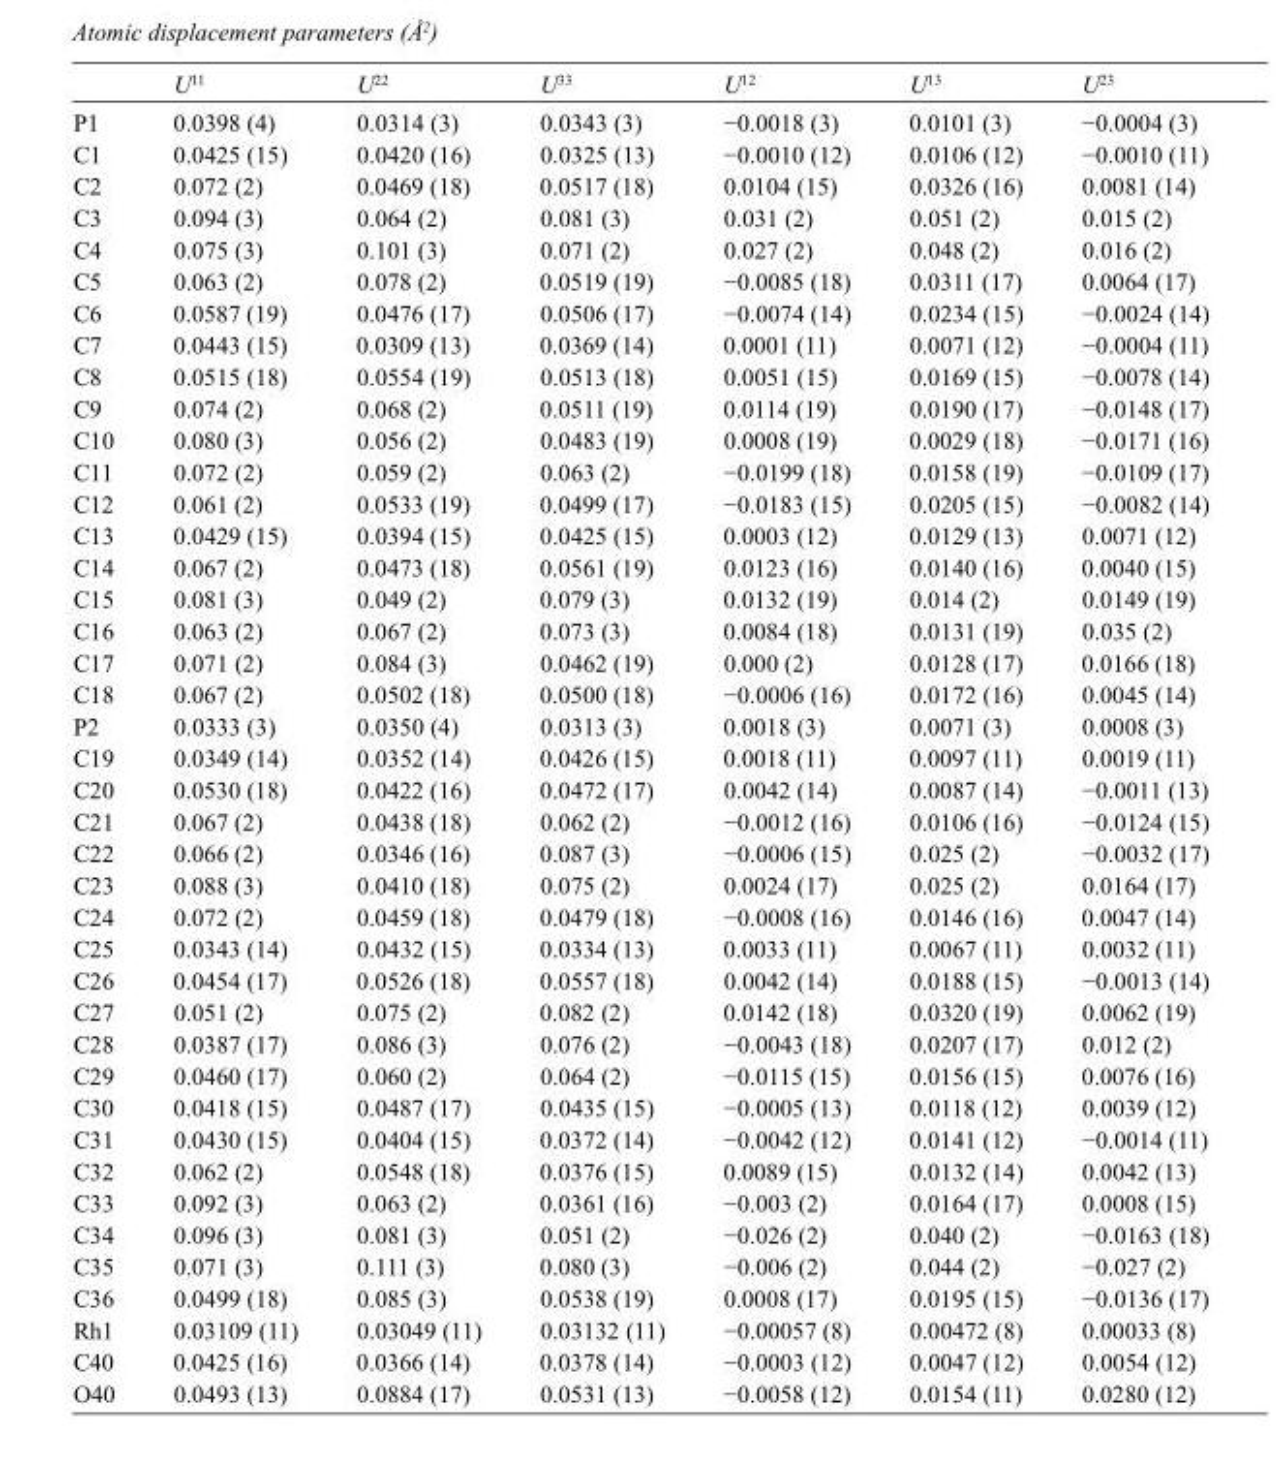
<table><thead><tr><td></td><td>U<sup>11</sup></td><td>U<sup>22</sup></td><td>U<sup>33</sup></td><td>U<sup>12</sup></td><td>U<sup>13</sup></td><td>U<sup>23</sup></td></tr></thead><tbody><tr><td>P1</td><td>0.0398 (4)</td><td>0.0314 (3)</td><td>0.0343 (3)</td><td>−0.0018 (3)</td><td>0.0101 (3)</td><td>−0.0004 (3)</td></tr><tr><td>C1</td><td>0.0425 (15)</td><td>0.0420 (16)</td><td>0.0325 (13)</td><td>−0.0010 (12)</td><td>0.0106 (12)</td><td>−0.0010 (11)</td></tr><tr><td>C2</td><td>0.072 (2)</td><td>0.0469 (18)</td><td>0.0517 (18)</td><td>0.0104 (15)</td><td>0.0326 (16)</td><td>0.0081 (14)</td></tr><tr><td>C3</td><td>0.094 (3)</td><td>0.064 (2)</td><td>0.081 (3)</td><td>0.031 (2)</td><td>0.051 (2)</td><td>0.015 (2)</td></tr><tr><td>C4</td><td>0.075 (3)</td><td>0.101 (3)</td><td>0.071 (2)</td><td>0.027 (2)</td><td>0.048 (2)</td><td>0.016 (2)</td></tr><tr><td>C5</td><td>0.063 (2)</td><td>0.078 (2)</td><td>0.0519 (19)</td><td>−0.0085 (18)</td><td>0.0311 (17)</td><td>0.0064 (17)</td></tr><tr><td>C6</td><td>0.0587 (19)</td><td>0.0476 (17)</td><td>0.0506 (17)</td><td>−0.0074 (14)</td><td>0.0234 (15)</td><td>−0.0024 (14)</td></tr><tr><td>C7</td><td>0.0443 (15)</td><td>0.0309 (13)</td><td>0.0369 (14)</td><td>0.0001 (11)</td><td>0.0071 (12)</td><td>−0.0004 (11)</td></tr><tr><td>C8</td><td>0.0515 (18)</td><td>0.0554 (19)</td><td>0.0513 (18)</td><td>0.0051 (15)</td><td>0.0169 (15)</td><td>−0.0078 (14)</td></tr><tr><td>C9</td><td>0.074 (2)</td><td>0.068 (2)</td><td>0.0511 (19)</td><td>0.0114 (19)</td><td>0.0190 (17)</td><td>−0.0148 (17)</td></tr><tr><td>C10</td><td>0.080 (3)</td><td>0.056 (2)</td><td>0.0483 (19)</td><td>0.0008 (19)</td><td>0.0029 (18)</td><td>−0.0171 (16)</td></tr><tr><td>C11</td><td>0.072 (2)</td><td>0.059 (2)</td><td>0.063 (2)</td><td>−0.0199 (18)</td><td>0.0158 (19)</td><td>−0.0109 (17)</td></tr><tr><td>C12</td><td>0.061 (2)</td><td>0.0533 (19)</td><td>0.0499 (17)</td><td>−0.0183 (15)</td><td>0.0205 (15)</td><td>−0.0082 (14)</td></tr><tr><td>C13</td><td>0.0429 (15)</td><td>0.0394 (15)</td><td>0.0425 (15)</td><td>0.0003 (12)</td><td>0.0129 (13)</td><td>0.0071 (12)</td></tr><tr><td>C14</td><td>0.067 (2)</td><td>0.0473 (18)</td><td>0.0561 (19)</td><td>0.0123 (16)</td><td>0.0140 (16)</td><td>0.0040 (15)</td></tr><tr><td>C15</td><td>0.081 (3)</td><td>0.049 (2)</td><td>0.079 (3)</td><td>0.0132 (19)</td><td>0.014 (2)</td><td>0.0149 (19)</td></tr><tr><td>C16</td><td>0.063 (2)</td><td>0.067 (2)</td><td>0.073 (3)</td><td>0.0084 (18)</td><td>0.0131 (19)</td><td>0.035 (2)</td></tr><tr><td>C17</td><td>0.071 (2)</td><td>0.084 (3)</td><td>0.0462 (19)</td><td>0.000 (2)</td><td>0.0128 (17)</td><td>0.0166 (18)</td></tr><tr><td>C18</td><td>0.067 (2)</td><td>0.0502 (18)</td><td>0.0500 (18)</td><td>−0.0006 (16)</td><td>0.0172 (16)</td><td>0.0045 (14)</td></tr><tr><td>P2</td><td>0.0333 (3)</td><td>0.0350 (4)</td><td>0.0313 (3)</td><td>0.0018 (3)</td><td>0.0071 (3)</td><td>0.0008 (3)</td></tr><tr><td>C19</td><td>0.0349 (14)</td><td>0.0352 (14)</td><td>0.0426 (15)</td><td>0.0018 (11)</td><td>0.0097 (11)</td><td>0.0019 (11)</td></tr><tr><td>C20</td><td>0.0530 (18)</td><td>0.0422 (16)</td><td>0.0472 (17)</td><td>0.0042 (14)</td><td>0.0087 (14)</td><td>−0.0011 (13)</td></tr><tr><td>C21</td><td>0.067 (2)</td><td>0.0438 (18)</td><td>0.062 (2)</td><td>−0.0012 (16)</td><td>0.0106 (16)</td><td>−0.0124 (15)</td></tr><tr><td>C22</td><td>0.066 (2)</td><td>0.0346 (16)</td><td>0.087 (3)</td><td>−0.0006 (15)</td><td>0.025 (2)</td><td>−0.0032 (17)</td></tr><tr><td>C23</td><td>0.088 (3)</td><td>0.0410 (18)</td><td>0.075 (2)</td><td>0.0024 (17)</td><td>0.025 (2)</td><td>0.0164 (17)</td></tr><tr><td>C24</td><td>0.072 (2)</td><td>0.0459 (18)</td><td>0.0479 (18)</td><td>−0.0008 (16)</td><td>0.0146 (16)</td><td>0.0047 (14)</td></tr><tr><td>C25</td><td>0.0343 (14)</td><td>0.0432 (15)</td><td>0.0334 (13)</td><td>0.0033 (11)</td><td>0.0067 (11)</td><td>0.0032 (11)</td></tr><tr><td>C26</td><td>0.0454 (17)</td><td>0.0526 (18)</td><td>0.0557 (18)</td><td>0.0042 (14)</td><td>0.0188 (15)</td><td>−0.0013 (14)</td></tr><tr><td>C27</td><td>0.051 (2)</td><td>0.075 (2)</td><td>0.082 (2)</td><td>0.0142 (18)</td><td>0.0320 (19)</td><td>0.0062 (19)</td></tr><tr><td>C28</td><td>0.0387 (17)</td><td>0.086 (3)</td><td>0.076 (2)</td><td>−0.0043 (18)</td><td>0.0207 (17)</td><td>0.012 (2)</td></tr><tr><td>C29</td><td>0.0460 (17)</td><td>0.060 (2)</td><td>0.064 (2)</td><td>−0.0115 (15)</td><td>0.0156 (15)</td><td>0.0076 (16)</td></tr><tr><td>C30</td><td>0.0418 (15)</td><td>0.0487 (17)</td><td>0.0435 (15)</td><td>−0.0005 (13)</td><td>0.0118 (12)</td><td>0.0039 (12)</td></tr><tr><td>C31</td><td>0.0430 (15)</td><td>0.0404 (15)</td><td>0.0372 (14)</td><td>−0.0042 (12)</td><td>0.0141 (12)</td><td>−0.0014 (11)</td></tr><tr><td>C32</td><td>0.062 (2)</td><td>0.0548 (18)</td><td>0.0376 (15)</td><td>0.0089 (15)</td><td>0.0132 (14)</td><td>0.0042 (13)</td></tr><tr><td>C33</td><td>0.092 (3)</td><td>0.063 (2)</td><td>0.0361 (16)</td><td>−0.003 (2)</td><td>0.0164 (17)</td><td>0.0008 (15)</td></tr><tr><td>C34</td><td>0.096 (3)</td><td>0.081 (3)</td><td>0.051 (2)</td><td>−0.026 (2)</td><td>0.040 (2)</td><td>−0.0163 (18)</td></tr><tr><td>C35</td><td>0.071 (3)</td><td>0.111 (3)</td><td>0.080 (3)</td><td>−0.006 (2)</td><td>0.044 (2)</td><td>−0.027 (2)</td></tr><tr><td>C36</td><td>0.0499 (18)</td><td>0.085 (3)</td><td>0.0538 (19)</td><td>0.0008 (17)</td><td>0.0195 (15)</td><td>−0.0136 (17)</td></tr><tr><td>Rh1</td><td>0.03109 (11)</td><td>0.03049 (11)</td><td>0.03132 (11)</td><td>−0.00057 (8)</td><td>0.00472 (8)</td><td>0.00033 (8)</td></tr><tr><td>C40</td><td>0.0425 (16)</td><td>0.0366 (14)</td><td>0.0378 (14)</td><td>−0.0003 (12)</td><td>0.0047 (12)</td><td>0.0054 (12)</td></tr><tr><td>O40</td><td>0.0493 (13)</td><td>0.0884 (17)</td><td>0.0531 (13)</td><td>−0.0058 (12)</td><td>0.0154 (11)</td><td>0.0280 (12)</td></tr></tbody></table>